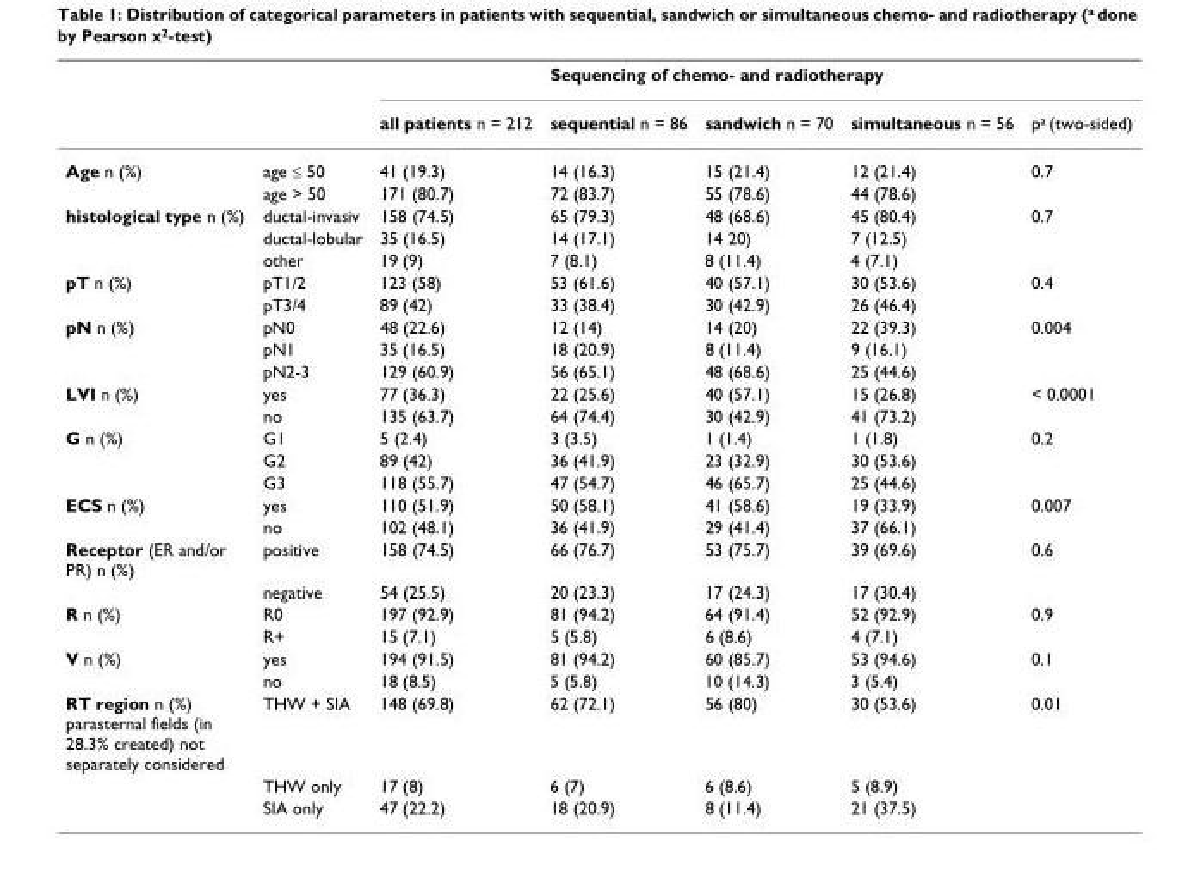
<table><thead><tr><td rowspan="2"></td><td rowspan="2"></td><td rowspan="2">all patients n = 212</td><td colspan="4">Sequencing of chemo- and radiotherapy</td></tr><tr><td>sequential n = 86</td><td>sandwich n = 70</td><td>simultaneous n = 56</td><td>p<sup>a</sup> (two-sided)</td></tr></thead><tbody><tr><td rowspan="2">Age n (%)</td><td>age ≤ 50</td><td>41 (19.3)</td><td>14 (16.3)</td><td>15 (21.4)</td><td>12 (21.4)</td><td>0.7</td></tr><tr><td>age &gt; 50</td><td>171 (80.7)</td><td>72 (83.7)</td><td>55 (78.6)</td><td>44 (78.6)</td><td></td></tr><tr><td rowspan="3">histological type n (%)</td><td>ductal-invasiv</td><td>158 (74.5)</td><td>65 (79.3)</td><td>48 (68.6)</td><td>45 (80.4)</td><td>0.7</td></tr><tr><td>ductal-lobular</td><td>35 (16.5)</td><td>14 (17.1)</td><td>14 20)</td><td>7 (12.5)</td><td></td></tr><tr><td>other</td><td>19 (9)</td><td>7 (8.1)</td><td>8 (11.4)</td><td>4 (7.1)</td><td></td></tr><tr><td rowspan="2">pT n (%)</td><td>pT1/2</td><td>123 (58)</td><td>53 (61.6)</td><td>40 (57.1)</td><td>30 (53.6)</td><td>0.4</td></tr><tr><td>pT3/4</td><td>89 (42)</td><td>33 (38.4)</td><td>30 (42.9)</td><td>26 (46.4)</td><td></td></tr><tr><td rowspan="3">pN n (%)</td><td>pN0</td><td>48 (22.6)</td><td>12 (14)</td><td>14 (20)</td><td>22 (39.3)</td><td>0.004</td></tr><tr><td>pN1</td><td>35 (16.5)</td><td>18 (20.9)</td><td>8 (11.4)</td><td>9 (16.1)</td><td></td></tr><tr><td>pN2-3</td><td>129 (60.9)</td><td>56 (65.1)</td><td>48 (68.6)</td><td>25 (44.6)</td><td></td></tr><tr><td rowspan="2">LVI n (%)</td><td>yes</td><td>77 (36.3)</td><td>22 (25.6)</td><td>40 (57.1)</td><td>15 (26.8)</td><td>&lt; 0.0001</td></tr><tr><td>no</td><td>135 (63.7)</td><td>64 (74.4)</td><td>30 (42.9)</td><td>41 (73.2)</td><td></td></tr><tr><td rowspan="3">G n (%)</td><td>G1</td><td>5 (2.4)</td><td>3 (3.5)</td><td>1 (1.4)</td><td>1 (1.8)</td><td>0.2</td></tr><tr><td>G2</td><td>89 (42)</td><td>36 (41.9)</td><td>23 (32.9)</td><td>30 (53.6)</td><td></td></tr><tr><td>G3</td><td>118 (55.7)</td><td>47 (54.7)</td><td>46 (65.7)</td><td>25 (44.6)</td><td></td></tr><tr><td rowspan="2">ECS n (%)</td><td>yes</td><td>110 (51.9)</td><td>50 (58.1)</td><td>41 (58.6)</td><td>19 (33.9)</td><td>0.007</td></tr><tr><td>no</td><td>102 (48.1)</td><td>36 (41.9)</td><td>29 (41.4)</td><td>37 (66.1)</td><td></td></tr><tr><td rowspan="2">Receptor (ER and/or PR) n (%)</td><td>positive</td><td>158 (74.5)</td><td>66 (76.7)</td><td>53 (75.7)</td><td>39 (69.6)</td><td>0.6</td></tr><tr><td>negative</td><td>54 (25.5)</td><td>20 (23.3)</td><td>17 (24.3)</td><td>17 (30.4)</td><td></td></tr><tr><td rowspan="2">R n (%)</td><td>R0</td><td>197 (92.9)</td><td>81 (94.2)</td><td>64 (91.4)</td><td>52 (92.9)</td><td>0.9</td></tr><tr><td>R+</td><td>15 (7.1)</td><td>5 (5.8)</td><td>6 (8.6)</td><td>4 (7.1)</td><td></td></tr><tr><td rowspan="2">V n (%)</td><td>yes</td><td>194 (91.5)</td><td>81 (94.2)</td><td>60 (85.7)</td><td>53 (94.6)</td><td>0.1</td></tr><tr><td>no</td><td>18 (8.5)</td><td>5 (5.8)</td><td>10 (14.3)</td><td>3 (5.4)</td><td></td></tr><tr><td rowspan="3">RT region n (%) parasternal fields (in 28.3% created) not separately considered</td><td>THW + SIA</td><td>148 (69.8)</td><td>62 (72.1)</td><td>56 (80)</td><td>30 (53.6)</td><td>0.01</td></tr><tr><td>THW only</td><td>17 (8)</td><td>6 (7)</td><td>6 (8.6)</td><td>5 (8.9)</td><td></td></tr><tr><td>SIA only</td><td>47 (22.2)</td><td>18 (20.9)</td><td>8 (11.4)</td><td>21 (37.5)</td><td></td></tr></tbody></table>